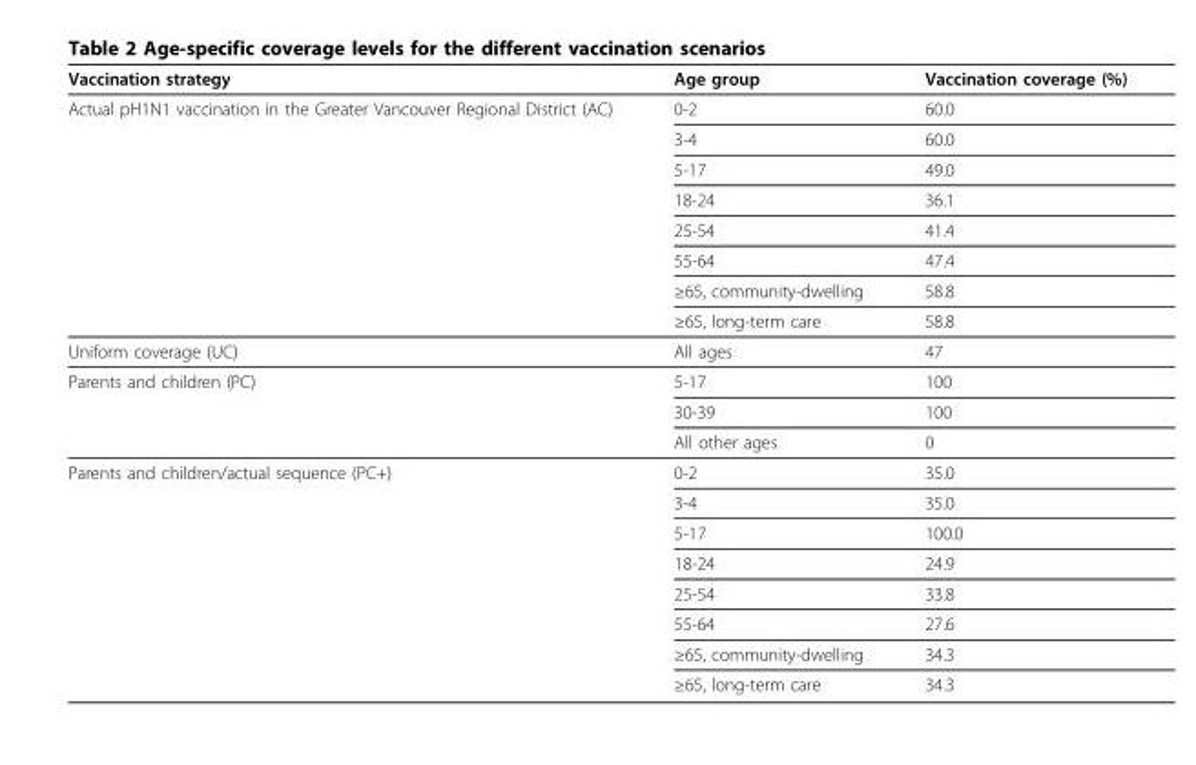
<table><thead><tr><td>Vaccination strategy</td><td>Age group</td><td>Vaccination coverage (%)</td></tr></thead><tbody><tr><td rowspan="8">Actual pH1N1 vaccination in the Greater Vancouver Regional District (AC)</td><td>0-2</td><td>60.0</td></tr><tr><td>3-4</td><td>60.0</td></tr><tr><td>5-17</td><td>49.0</td></tr><tr><td>18-24</td><td>36.1</td></tr><tr><td>25-54</td><td>41.4</td></tr><tr><td>55-64</td><td>47.4</td></tr><tr><td>≥65, community-dwelling</td><td>58.8</td></tr><tr><td>≥65, long-term care</td><td>58.8</td></tr><tr><td>Uniform coverage (UC)</td><td>All ages</td><td>47</td></tr><tr><td rowspan="3">Parents and children (PC)</td><td>5-17</td><td>100</td></tr><tr><td>30-39</td><td>100</td></tr><tr><td>All other ages</td><td>0</td></tr><tr><td rowspan="8">Parents and children/actual sequence (PC+)</td><td>0-2</td><td>35.0</td></tr><tr><td>3-4</td><td>35.0</td></tr><tr><td>5-17</td><td>100.0</td></tr><tr><td>18-24</td><td>24.9</td></tr><tr><td>25-54</td><td>33.8</td></tr><tr><td>55-64</td><td>27.6</td></tr><tr><td>≥65, community-dwelling</td><td>34.3</td></tr><tr><td>≥65, long-term care</td><td>34.3</td></tr></tbody></table>